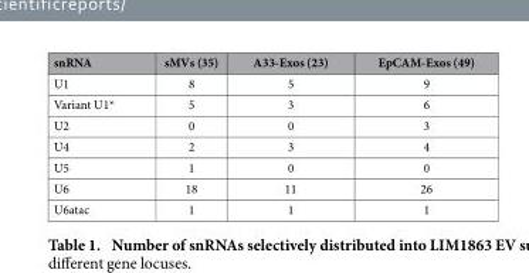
<table><thead><tr><td>snRNA</td><td>sMVs (35)</td><td>A33-Exos (23)</td><td>EpCAM-Exos (49)</td></tr></thead><tbody><tr><td>U1</td><td>8</td><td>5</td><td>9</td></tr><tr><td>Variant U1*</td><td>5</td><td>3</td><td>6</td></tr><tr><td>U2</td><td>0</td><td>0</td><td>3</td></tr><tr><td>U4</td><td>2</td><td>3</td><td>4</td></tr><tr><td>U5</td><td>1</td><td>0</td><td>0</td></tr><tr><td>U6</td><td>18</td><td>11</td><td>26</td></tr><tr><td>U6atac</td><td>1</td><td>1</td><td>1</td></tr></tbody></table>